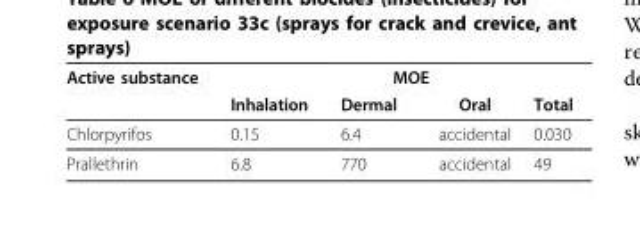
<table><thead><tr><td rowspan="2">Active substance</td><td colspan="4">MOE</td></tr><tr><td>Inhalation</td><td>Dermal</td><td>Oral</td><td>Total</td></tr></thead><tbody><tr><td>Chlorpyrifos</td><td>0.15</td><td>6.4</td><td>accidental</td><td>0.030</td></tr><tr><td>Prallethrin</td><td>6.8</td><td>770</td><td>accidental</td><td>49</td></tr></tbody></table>